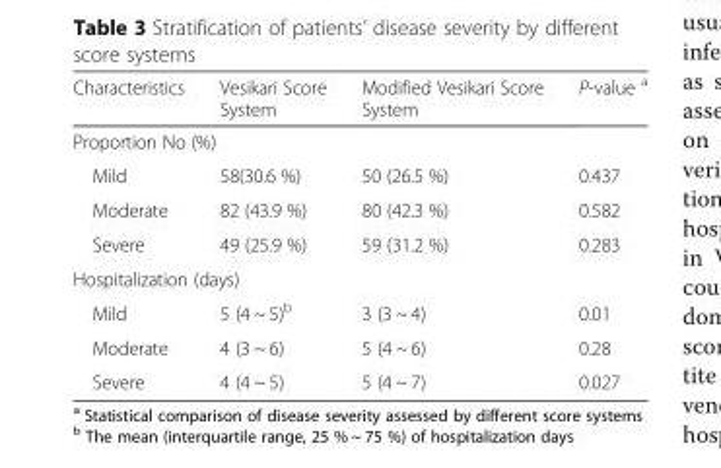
<table><thead><tr><td>Characteristics</td><td>Vesikari Score System</td><td>Modified Vesikari Score System</td><td>P-value <sup>a</sup></td></tr></thead><tbody><tr><td colspan="4">Proportion No (%)</td></tr><tr><td>Mild</td><td>58(30.6 %)</td><td>50 (26.5 %)</td><td>0.437</td></tr><tr><td>Moderate</td><td>82 (43.9 %)</td><td>80 (42.3 %)</td><td>0.582</td></tr><tr><td>Severe</td><td>49 (25.9 %)</td><td>59 (31.2 %)</td><td>0.283</td></tr><tr><td colspan="4">Hospitalization (days)</td></tr><tr><td>Mild</td><td>5 (4 ~ 5)<sup>b</sup></td><td>3 (3 ~ 4)</td><td>0.01</td></tr><tr><td>Moderate</td><td>4 (3 ~ 6)</td><td>5 (4 ~ 6)</td><td>0.28</td></tr><tr><td>Severe</td><td>4 (4 ~ 5)</td><td>5 (4 ~ 7)</td><td>0.027</td></tr></tbody></table>